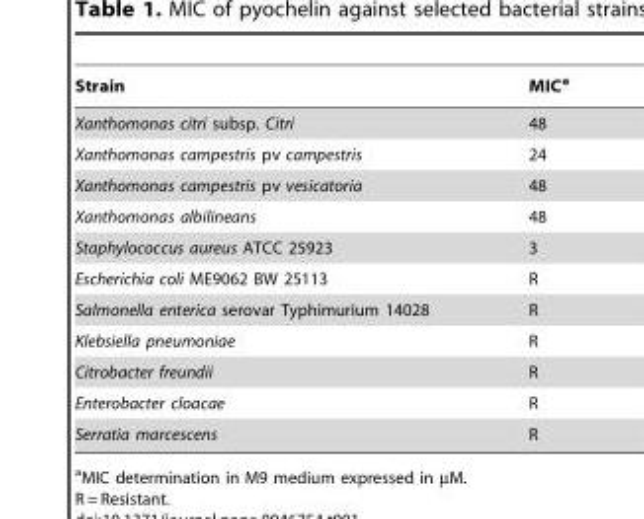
<table><thead><tr><td>Strain</td><td>MIC<sup>a</sup></td></tr></thead><tbody><tr><td>Xanthomonas citri subsp. Citri</td><td>48</td></tr><tr><td>Xanthomonas campestris pv campestris</td><td>24</td></tr><tr><td>Xanthomonas campestris pv vesicatoria</td><td>48</td></tr><tr><td>Xanthomonas albilineans</td><td>48</td></tr><tr><td>Staphylococcus aureus ATCC 25923</td><td>3</td></tr><tr><td>Escherichia coli ME9062 BW 25113</td><td>R</td></tr><tr><td>Salmonella enterica serovar Typhimurium 14028</td><td>R</td></tr><tr><td>Klebsiella pneumoniae</td><td>R</td></tr><tr><td>Citrobacter freundii</td><td>R</td></tr><tr><td>Enterobacter cloacae</td><td>R</td></tr><tr><td>Serratia marcescens</td><td>R</td></tr></tbody></table>